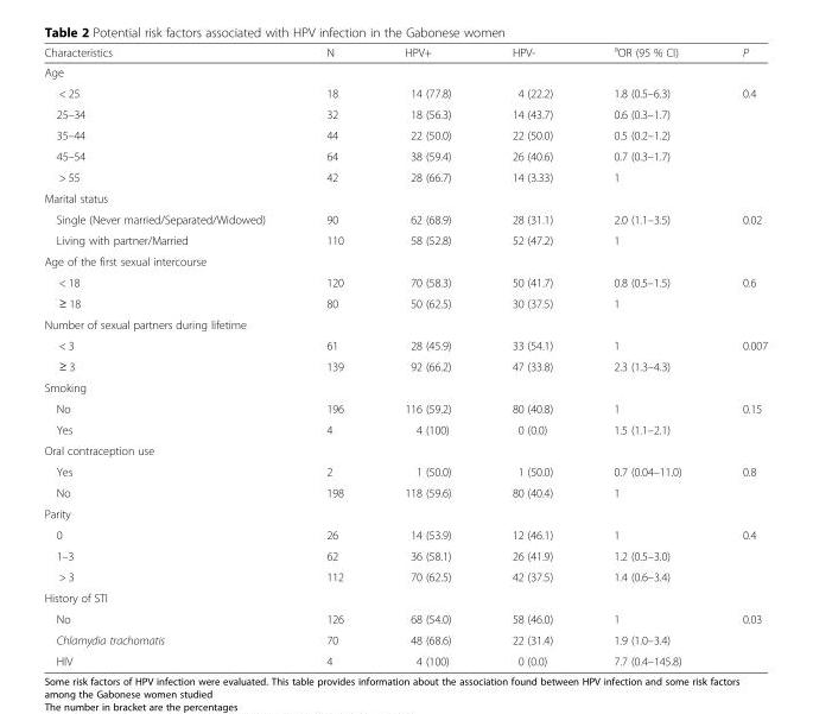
<table><thead><tr><td>Characteristics</td><td>N</td><td>HPV+</td><td>HPV-</td><td><sup>a</sup>OR (95 % CI)</td><td>P</td></tr></thead><tbody><tr><td colspan="6">Age</td></tr><tr><td>&lt; 25</td><td>18</td><td>14 (77.8)</td><td>4 (22.2)</td><td>1.8 (0.5–6.3)</td><td rowspan="5">0.4</td></tr><tr><td>25–34</td><td>32</td><td>18 (56.3)</td><td>14 (43.7)</td><td>0.6 (0.3–1.7)</td></tr><tr><td>35–44</td><td>44</td><td>22 (50.0)</td><td>22 (50.0)</td><td>0.5 (0.2–1.2)</td></tr><tr><td>45–54</td><td>64</td><td>38 (59.4)</td><td>26 (40.6)</td><td>0.7 (0.3–1.7)</td></tr><tr><td>&gt; 55</td><td>42</td><td>28 (66.7)</td><td>14 (3.33)</td><td>1</td></tr><tr><td colspan="6">Marital status</td></tr><tr><td>Single (Never married/Separated/Widowed)</td><td>90</td><td>62 (68.9)</td><td>28 (31.1)</td><td>2.0 (1.1–3.5)</td><td rowspan="2">0.02</td></tr><tr><td>Living with partner/Married</td><td>110</td><td>58 (52.8)</td><td>52 (47.2)</td><td>1</td></tr><tr><td colspan="6">Age of the first sexual intercourse</td></tr><tr><td>&lt; 18</td><td>120</td><td>70 (58.3)</td><td>50 (41.7)</td><td>0.8 (0.5–1.5)</td><td rowspan="2">0.6</td></tr><tr><td>≥ 18</td><td>80</td><td>50 (62.5)</td><td>30 (37.5)</td><td>1</td></tr><tr><td colspan="6">Number of sexual partners during lifetime</td></tr><tr><td>&lt; 3</td><td>61</td><td>28 (45.9)</td><td>33 (54.1)</td><td>1</td><td rowspan="2">0.007</td></tr><tr><td>≥ 3</td><td>139</td><td>92 (66.2)</td><td>47 (33.8)</td><td>2.3 (1.3–4.3)</td></tr><tr><td colspan="6">Smoking</td></tr><tr><td>No</td><td>196</td><td>116 (59.2)</td><td>80 (40.8)</td><td>1</td><td rowspan="2">0.15</td></tr><tr><td>Yes</td><td>4</td><td>4 (100)</td><td>0 (0.0)</td><td>1.5 (1.1–2.1)</td></tr><tr><td colspan="6">Oral contraception use</td></tr><tr><td>Yes</td><td>2</td><td>1 (50.0)</td><td>1 (50.0)</td><td>0.7 (0.04–11.0)</td><td rowspan="2">0.8</td></tr><tr><td>No</td><td>198</td><td>118 (59.6)</td><td>80 (40.4)</td><td>1</td></tr><tr><td colspan="6">Parity</td></tr><tr><td>0</td><td>26</td><td>14 (53.9)</td><td>12 (46.1)</td><td>1</td><td rowspan="3">0.4</td></tr><tr><td>1–3</td><td>62</td><td>36 (58.1)</td><td>26 (41.9)</td><td>1.2 (0.5–3.0)</td></tr><tr><td>&gt; 3</td><td>112</td><td>70 (62.5)</td><td>42 (37.5)</td><td>1.4 (0.6–3.4)</td></tr><tr><td colspan="6">History of STI</td></tr><tr><td>No</td><td>126</td><td>68 (54.0)</td><td>58 (46.0)</td><td>1</td><td rowspan="3">0.03</td></tr><tr><td>Chlamydia trachomatis</td><td>70</td><td>48 (68.6)</td><td>22 (31.4)</td><td>1.9 (1.0–3.4)</td></tr><tr><td>HIV</td><td>4</td><td>4 (100)</td><td>0 (0.0)</td><td>7.7 (0.4–145.8)</td></tr></tbody></table>